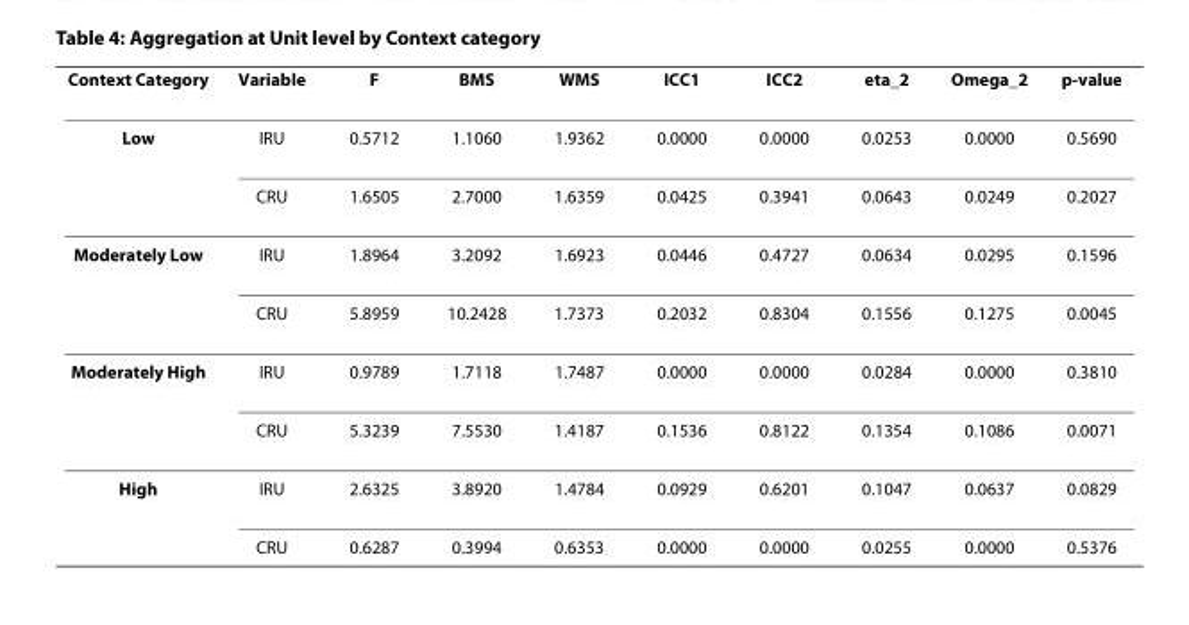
<table><thead><tr><td>Context Category</td><td>Variable</td><td>F</td><td>BMS</td><td>WMS</td><td>ICC1</td><td>ICC2</td><td>eta_2</td><td>Omega_2</td><td>p-value</td></tr></thead><tbody><tr><td rowspan="2">Low</td><td>IRU</td><td>0.5712</td><td>1.1060</td><td>1.9362</td><td>0.0000</td><td>0.0000</td><td>0.0253</td><td>0.0000</td><td>0.5690</td></tr><tr><td>CRU</td><td>1.6505</td><td>2.7000</td><td>1.6359</td><td>0.0425</td><td>0.3941</td><td>0.0643</td><td>0.0249</td><td>0.2027</td></tr><tr><td rowspan="2">Moderately Low</td><td>IRU</td><td>1.8964</td><td>3.2092</td><td>1.6923</td><td>0.0446</td><td>0.4727</td><td>0.0634</td><td>0.0295</td><td>0.1596</td></tr><tr><td>CRU</td><td>5.8959</td><td>10.2428</td><td>1.7373</td><td>0.2032</td><td>0.8304</td><td>0.1556</td><td>0.1275</td><td>0.0045</td></tr><tr><td rowspan="2">Moderately High</td><td>IRU</td><td>0.9789</td><td>1.7118</td><td>1.7487</td><td>0.0000</td><td>0.0000</td><td>0.0284</td><td>0.0000</td><td>0.3810</td></tr><tr><td>CRU</td><td>5.3239</td><td>7.5530</td><td>1.4187</td><td>0.1536</td><td>0.8122</td><td>0.1354</td><td>0.1086</td><td>0.0071</td></tr><tr><td rowspan="2">High</td><td>IRU</td><td>2.6325</td><td>3.8920</td><td>1.4784</td><td>0.0929</td><td>0.6201</td><td>0.1047</td><td>0.0637</td><td>0.0829</td></tr><tr><td>CRU</td><td>0.6287</td><td>0.3994</td><td>0.6353</td><td>0.0000</td><td>0.0000</td><td>0.0255</td><td>0.0000</td><td>0.5376</td></tr></tbody></table>